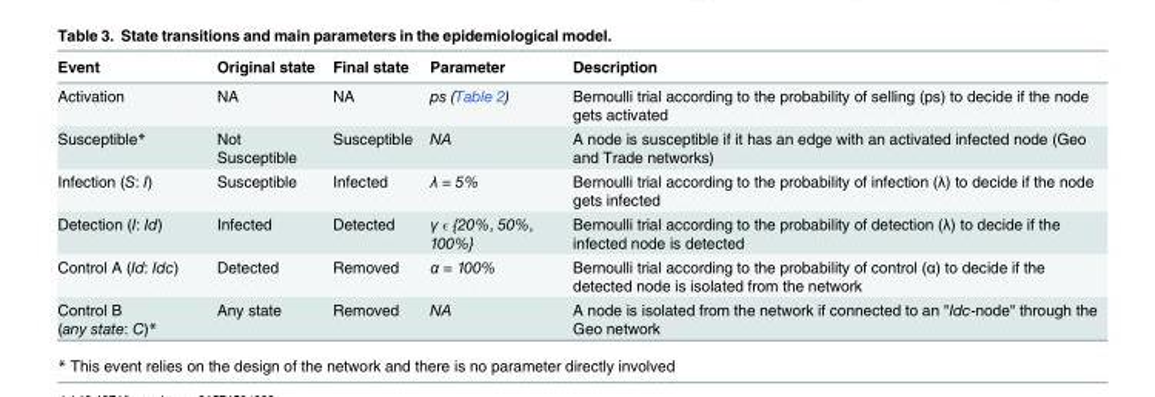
<table><thead><tr><td>Event</td><td>Original state</td><td>Final state</td><td>Parameter</td><td>Description</td></tr></thead><tbody><tr><td>Activation</td><td>NA</td><td>NA</td><td>ps (Table 2)</td><td>Bernoulli trial according to the probability of selling (ps) to decide if the node gets activated</td></tr><tr><td>Susceptible*</td><td>Not Susceptible</td><td>Susceptible</td><td>NA</td><td>A node is susceptible if it has an edge with an activated infected node (Geo and Trade networks)</td></tr><tr><td>Infection (S: I)</td><td>Susceptible</td><td>Infected</td><td>λ = 5%</td><td>Bernoulli trial according to the probability of infection (λ) to decide if the node gets infected</td></tr><tr><td>Detection (I: Id)</td><td>Infected</td><td>Detected</td><td>γ ϵ {20%, 50%, 100%}</td><td>Bernoulli trial according to the probability of detection (λ) to decide if the infected node is detected</td></tr><tr><td>Control A (Id: Idc)</td><td>Detected</td><td>Removed</td><td>α = 100%</td><td>Bernoulli trial according to the probability of control (α) to decide if the detected node is isolated from the network</td></tr><tr><td>Control B (any state: C)*</td><td>Any state</td><td>Removed</td><td>NA</td><td>A node is isolated from the network if connected to an &quot;Idc-node&quot; through the Geo network</td></tr></tbody></table>